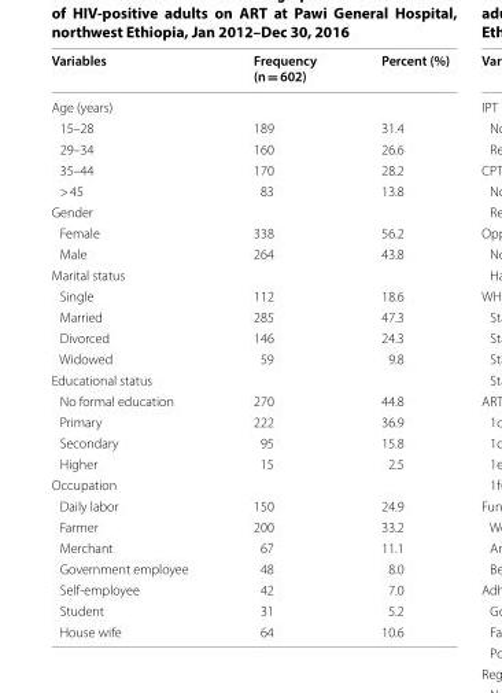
<table><thead><tr><td>Variables</td><td>Frequency (n = 602)</td><td>Percent (%)</td></tr></thead><tbody><tr><td colspan="3">Age (years)</td></tr><tr><td>15–28</td><td>189</td><td>31.4</td></tr><tr><td>29–34</td><td>160</td><td>26.6</td></tr><tr><td>35–44</td><td>170</td><td>28.2</td></tr><tr><td>&gt; 45</td><td>83</td><td>13.8</td></tr><tr><td colspan="3">Gender</td></tr><tr><td>Female</td><td>338</td><td>56.2</td></tr><tr><td>Male</td><td>264</td><td>43.8</td></tr><tr><td colspan="3">Marital status</td></tr><tr><td>Single</td><td>112</td><td>18.6</td></tr><tr><td>Married</td><td>285</td><td>47.3</td></tr><tr><td>Divorced</td><td>146</td><td>24.3</td></tr><tr><td>Widowed</td><td>59</td><td>9.8</td></tr><tr><td colspan="3">Educational status</td></tr><tr><td>No formal education</td><td>270</td><td>44.8</td></tr><tr><td>Primary</td><td>222</td><td>36.9</td></tr><tr><td>Secondary</td><td>95</td><td>15.8</td></tr><tr><td>Higher</td><td>15</td><td>2.5</td></tr><tr><td colspan="3">Occupation</td></tr><tr><td>Daily labor</td><td>150</td><td>24.9</td></tr><tr><td>Farmer</td><td>200</td><td>33.2</td></tr><tr><td>Merchant</td><td>67</td><td>11.1</td></tr><tr><td>Government employee</td><td>48</td><td>8.0</td></tr><tr><td>Self-employee</td><td>42</td><td>7.0</td></tr><tr><td>Student</td><td>31</td><td>5.2</td></tr><tr><td>House wife</td><td>64</td><td>10.6</td></tr></tbody></table>